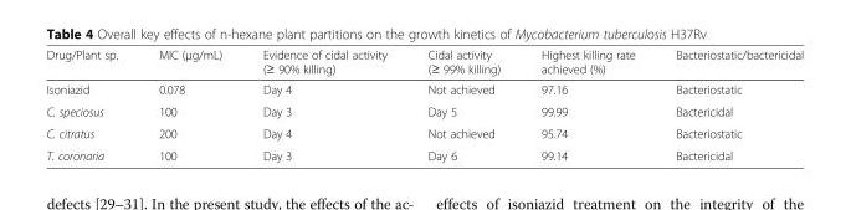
<table><thead><tr><td>Drug/Plant sp.</td><td>MIC (μg/mL)</td><td>Evidence of cidal activity (≥ 90% killing)</td><td>Cidal activity (≥ 99% killing)</td><td>Highest killing rate achieved (%)</td><td>Bacteriostatic/bactericidal</td></tr></thead><tbody><tr><td>Isoniazid</td><td>0.078</td><td>Day 4</td><td>Not achieved</td><td>97.16</td><td>Bacteriostatic</td></tr><tr><td>C. speciosus</td><td>100</td><td>Day 3</td><td>Day 5</td><td>99.99</td><td>Bactericidal</td></tr><tr><td>C. citratus</td><td>200</td><td>Day 4</td><td>Not achieved</td><td>95.74</td><td>Bacteriostatic</td></tr><tr><td>T. coronaria</td><td>100</td><td>Day 3</td><td>Day 6</td><td>99.14</td><td>Bactericidal</td></tr></tbody></table>